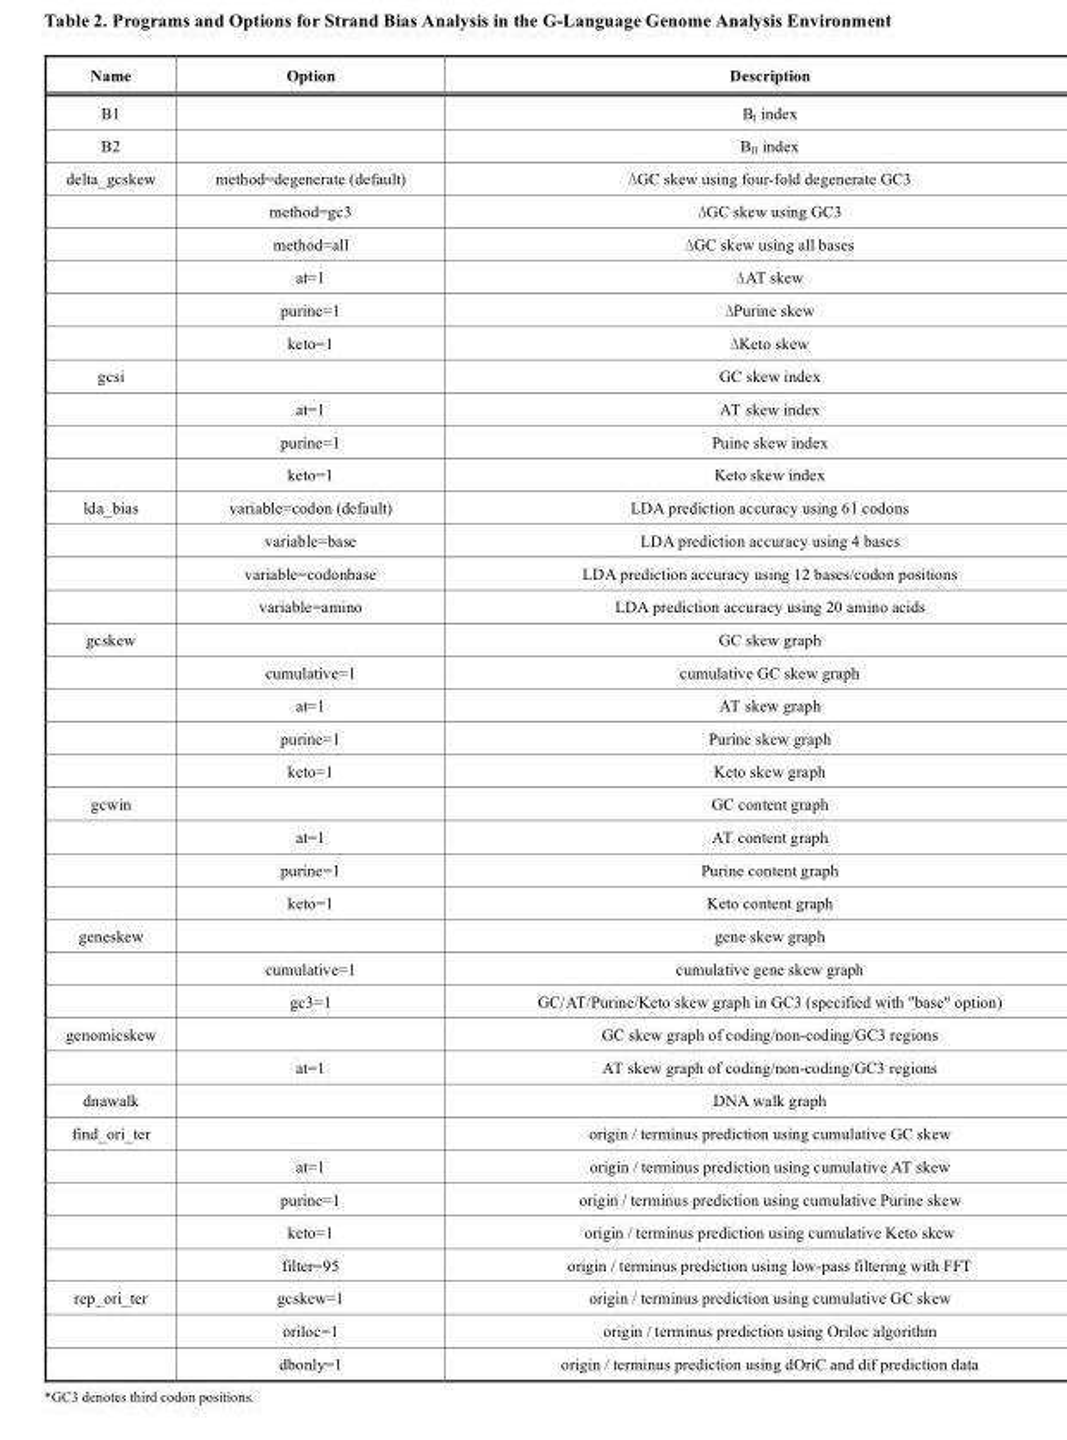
<table><thead><tr><td>Name</td><td>Option</td><td>Description</td></tr></thead><tbody><tr><td>B1</td><td></td><td>BI index</td></tr><tr><td>B2</td><td></td><td>BII index</td></tr><tr><td rowspan="6">delta_gcskew</td><td>method=degenerate (default)</td><td>ΔGC skew using four-fold degenerate GC3</td></tr><tr><td>method=gc3</td><td>ΔGC skew using GC3</td></tr><tr><td>method=all</td><td>ΔGC skew using all bases</td></tr><tr><td>at=1</td><td>ΔAT skew</td></tr><tr><td>purine=1</td><td>ΔPurine skew</td></tr><tr><td>keto=1</td><td>ΔKeto skew</td></tr><tr><td rowspan="4">gcsi</td><td></td><td>GC skew index</td></tr><tr><td>at=1</td><td>AT skew index</td></tr><tr><td>purine=1</td><td>Puine skew index</td></tr><tr><td>keto=1</td><td>Keto skew index</td></tr><tr><td rowspan="4">lda_bias</td><td>variable=codon (default)</td><td>LDA prediction accuracy using 61 codons</td></tr><tr><td>variable=base</td><td>LDA prediction accuracy using 4 bases</td></tr><tr><td>variable=codonbase</td><td>LDA prediction accuracy using 12 bases/codon positions</td></tr><tr><td>variable=amino</td><td>LDA prediction accuracy using 20 amino acids</td></tr><tr><td rowspan="5">gcskew</td><td></td><td>GC skew graph</td></tr><tr><td>cumulative=1</td><td>cumulative GC skew graph</td></tr><tr><td>at=1</td><td>AT skew graph</td></tr><tr><td>purine=1</td><td>Purine skew graph</td></tr><tr><td>keto=1</td><td>Keto skew graph</td></tr><tr><td rowspan="4">gcwin</td><td></td><td>GC content graph</td></tr><tr><td>at=1</td><td>AT content graph</td></tr><tr><td>purine=1</td><td>Purine content graph</td></tr><tr><td>keto=1</td><td>Keto content graph</td></tr><tr><td rowspan="3">geneskew</td><td></td><td>gene skew graph</td></tr><tr><td>cumulative=1</td><td>cumulative gene skew graph</td></tr><tr><td>gc3=1</td><td>GC/AT/Purine/Keto skew graph in GC3 (specified with &quot;base&quot; option)</td></tr><tr><td rowspan="2">genomicskew</td><td></td><td>GC skew graph of coding/non-coding/GC3 regions</td></tr><tr><td>at=1</td><td>AT skew graph of coding/non-coding/GC3 regions</td></tr><tr><td>dnawalk</td><td></td><td>DNA walk graph</td></tr><tr><td rowspan="5">find_ori_ter</td><td></td><td>origin / terminus prediction using cumulative GC skew</td></tr><tr><td>at=1</td><td>origin / terminus prediction using cumulative AT skew</td></tr><tr><td>purine=1</td><td>origin / terminus prediction using cumulative Purine skew</td></tr><tr><td>keto=1</td><td>origin / terminus prediction using cumulative Keto skew</td></tr><tr><td>filter=95</td><td>origin / terminus prediction using low-pass filtering with FFT</td></tr><tr><td rowspan="3">rep_ori_ter</td><td>gcskew=1</td><td>origin / terminus prediction using cumulative GC skew</td></tr><tr><td>oriloc=1</td><td>origin / terminus prediction using Oriloc algorithm</td></tr><tr><td>dbonly=1</td><td>origin / terminus prediction using dOriC and dif prediction data</td></tr></tbody></table>